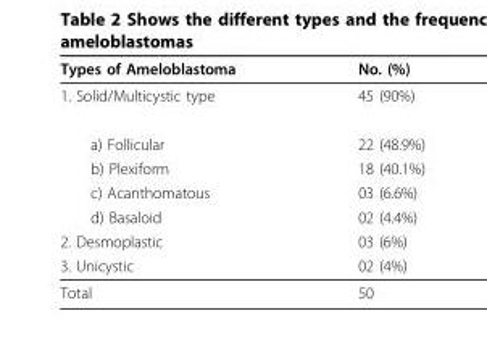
<table><thead><tr><td>Types of Ameloblastoma</td><td>No. (%)</td></tr></thead><tbody><tr><td>1. Solid/Multicystic type</td><td>45 (90%)</td></tr><tr><td>a) Follicular</td><td>22 (48.9%)</td></tr><tr><td>b) Plexiform</td><td>18 (40.1%)</td></tr><tr><td>c) Acanthomatous</td><td>03 (6.6%)</td></tr><tr><td>d) Basaloid</td><td>02 (4.4%)</td></tr><tr><td>2. Desmoplastic</td><td>03 (6%)</td></tr><tr><td>3. Unicystic</td><td>02 (4%)</td></tr><tr><td>Total</td><td>50</td></tr></tbody></table>